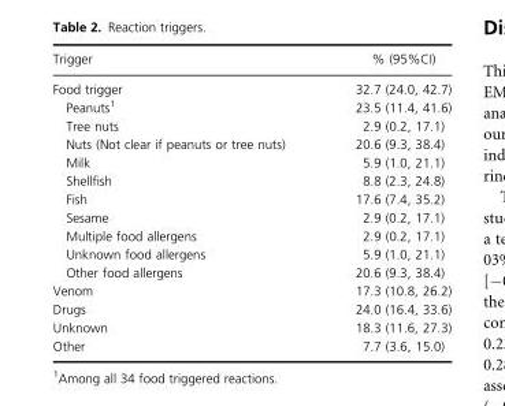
<table><thead><tr><td>Trigger</td><td>% (95%CI)</td></tr></thead><tbody><tr><td>Food trigger</td><td>32.7 (24.0, 42.7)</td></tr><tr><td>Peanuts<sup>1</sup></td><td>23.5 (11.4, 41.6)</td></tr><tr><td>Tree nuts</td><td>2.9 (0.2, 17.1)</td></tr><tr><td>Nuts (Not clear if peanuts or tree nuts)</td><td>20.6 (9.3, 38.4)</td></tr><tr><td>Milk</td><td>5.9 (1.0, 21.1)</td></tr><tr><td>Shellfish</td><td>8.8 (2.3, 24.8)</td></tr><tr><td>Fish</td><td>17.6 (7.4, 35.2)</td></tr><tr><td>Sesame</td><td>2.9 (0.2, 17.1)</td></tr><tr><td>Multiple food allergens</td><td>2.9 (0.2, 17.1)</td></tr><tr><td>Unknown food allergens</td><td>5.9 (1.0, 21.1)</td></tr><tr><td>Other food allergens</td><td>20.6 (9.3, 38.4)</td></tr><tr><td>Venom</td><td>17.3 (10.8, 26.2)</td></tr><tr><td>Drugs</td><td>24.0 (16.4, 33.6)</td></tr><tr><td>Unknown</td><td>18.3 (11.6, 27.3)</td></tr><tr><td>Other</td><td>7.7 (3.6, 15.0)</td></tr></tbody></table>